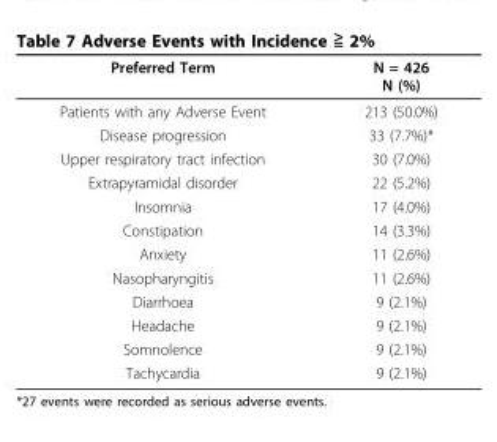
<table><thead><tr><td>Preferred Term</td><td>N = 426 N (%)</td></tr></thead><tbody><tr><td>Patients with any Adverse Event</td><td>213 (50.0%)</td></tr><tr><td>Disease progression</td><td>33 (7.7%)*</td></tr><tr><td>Upper respiratory tract infection</td><td>30 (7.0%)</td></tr><tr><td>Extrapyramidal disorder</td><td>22 (5.2%)</td></tr><tr><td>Insomnia</td><td>17 (4.0%)</td></tr><tr><td>Constipation</td><td>14 (3.3%)</td></tr><tr><td>Anxiety</td><td>11 (2.6%)</td></tr><tr><td>Nasopharyngitis</td><td>11 (2.6%)</td></tr><tr><td>Diarrhoea</td><td>9 (2.1%)</td></tr><tr><td>Headache</td><td>9 (2.1%)</td></tr><tr><td>Somnolence</td><td>9 (2.1%)</td></tr><tr><td>Tachycardia</td><td>9 (2.1%)</td></tr></tbody></table>